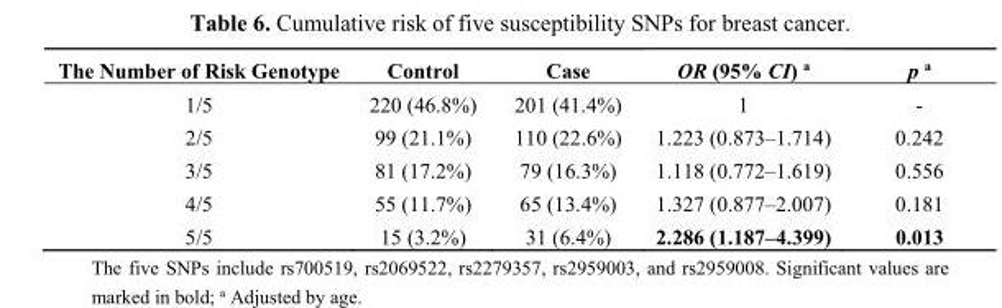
<table><thead><tr><td>The Number of Risk Genotype</td><td>Control</td><td>Case</td><td>OR (95% CI) <sup>a</sup></td><td>p <sup>a</sup></td></tr></thead><tbody><tr><td>1/5</td><td>220 (46.8%)</td><td>201 (41.4%)</td><td>1</td><td>-</td></tr><tr><td>2/5</td><td>99 (21.1%)</td><td>110 (22.6%)</td><td>1.223 (0.873–1.714)</td><td>0.242</td></tr><tr><td>3/5</td><td>81 (17.2%)</td><td>79 (16.3%)</td><td>1.118 (0.772–1.619)</td><td>0.556</td></tr><tr><td>4/5</td><td>55 (11.7%)</td><td>65 (13.4%)</td><td>1.327 (0.877–2.007)</td><td>0.181</td></tr><tr><td>5/5</td><td>15 (3.2%)</td><td>31 (6.4%)</td><td>2.286 (1.187–4.399)</td><td>0.013</td></tr></tbody></table>